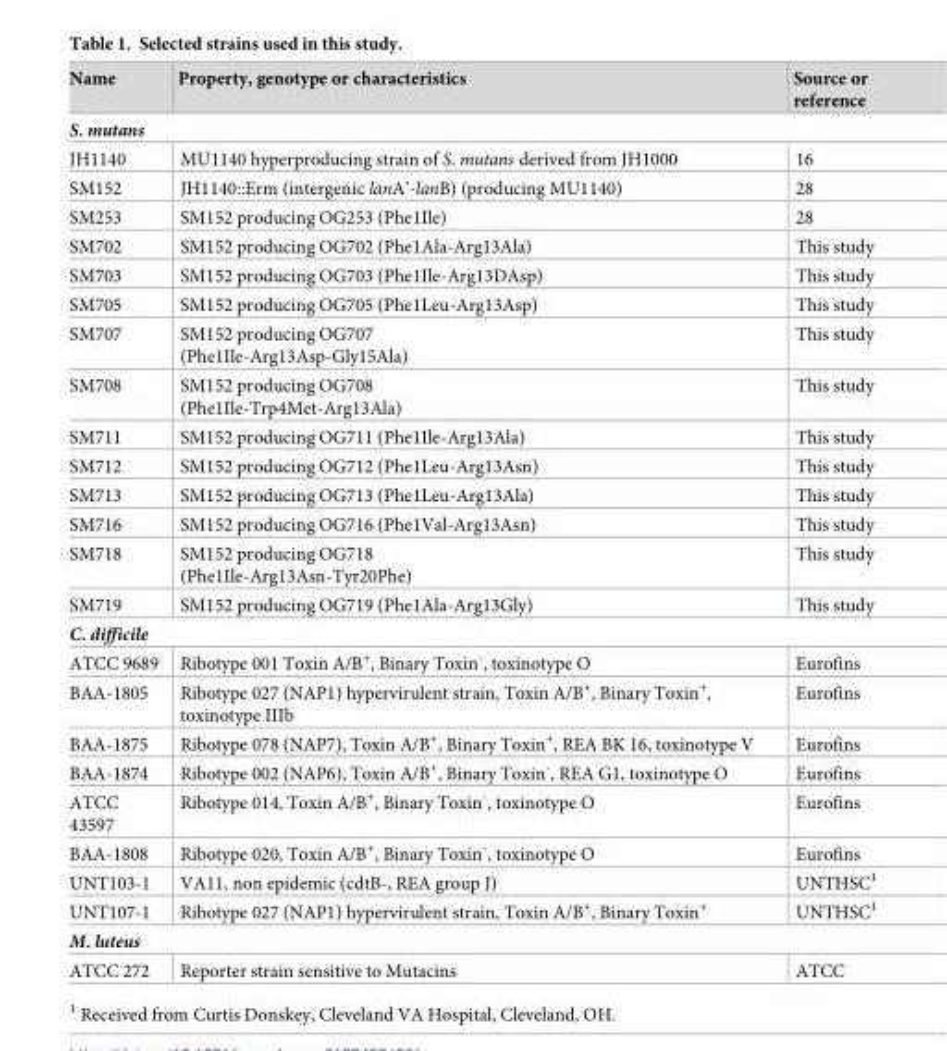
<table><thead><tr><td>Name</td><td>Property, genotype or characteristics</td><td>Source or reference</td></tr></thead><tbody><tr><td colspan="3">S. mutans</td></tr><tr><td>JH1140</td><td>MU1140 hyperproducing strain of S. mutans derived from JH1000</td><td>16</td></tr><tr><td>SM152</td><td>JH1140::Erm (intergenic lanA’-lanB) (producing MU1140)</td><td>28</td></tr><tr><td>SM253</td><td>SM152 producing OG253 (Phe1Ile)</td><td>28</td></tr><tr><td>SM702</td><td>SM152 producing OG702 (Phe1Ala-Arg13Ala)</td><td>This study</td></tr><tr><td>SM703</td><td>SM152 producing OG703 (Phe1Ile-Arg13DAsp)</td><td>This study</td></tr><tr><td>SM705</td><td>SM152 producing OG705 (Phe1Leu-Arg13Asp)</td><td>This study</td></tr><tr><td>SM707</td><td>SM152 producing OG707 (Phe1Ile-Arg13Asp-Gly15Ala)</td><td>This study</td></tr><tr><td>SM708</td><td>SM152 producing OG708 (Phe1Ile-Trp4Met-Arg13Ala)</td><td>This study</td></tr><tr><td>SM711</td><td>SM152 producing OG711 (Phe1Ile-Arg13Ala)</td><td>This study</td></tr><tr><td>SM712</td><td>SM152 producing OG712 (Phe1Leu-Arg13Asn)</td><td>This study</td></tr><tr><td>SM713</td><td>SM152 producing OG713 (Phe1Leu-Arg13Ala)</td><td>This study</td></tr><tr><td>SM716</td><td>SM152 producing OG716 (Phe1Val-Arg13Asn)</td><td>This study</td></tr><tr><td>SM718</td><td>SM152 producing OG718 (Phe1Ile-Arg13Asn-Tyr20Phe)</td><td>This study</td></tr><tr><td>SM719</td><td>SM152 producing OG719 (Phe1Ala-Arg13Gly)</td><td>This study</td></tr><tr><td colspan="3">C. difficile</td></tr><tr><td>ATCC 9689</td><td>Ribotype 001 Toxin A/B<sup>+</sup>, Binary Toxin<sup>-</sup>, toxinotype O</td><td>Eurofins</td></tr><tr><td>BAA-1805</td><td>Ribotype 027 (NAP1) hypervirulent strain, Toxin A/B<sup>+</sup>, Binary Toxin<sup>+</sup>, toxinotype IIIb</td><td>Eurofins</td></tr><tr><td>BAA-1875</td><td>Ribotype 078 (NAP7), Toxin A/B<sup>+</sup>, Binary Toxin<sup>+</sup>, REA BK 16, toxinotype V</td><td>Eurofins</td></tr><tr><td>BAA-1874</td><td>Ribotype 002 (NAP6), Toxin A/B<sup>+</sup>, Binary Toxin<sup>-</sup>, REA G1, toxinotype O</td><td>Eurofins</td></tr><tr><td>ATCC 43597</td><td>Ribotype 014, Toxin A/B<sup>+</sup>, Binary Toxin<sup>-</sup>, toxinotype O</td><td>Eurofins</td></tr><tr><td>BAA-1808</td><td>Ribotype 020, Toxin A/B<sup>+</sup>, Binary Toxin<sup>-</sup>, toxinotype O</td><td>Eurofins</td></tr><tr><td>UNT103-1</td><td>VA11, non epidemic (cdtB-, REA group J)</td><td>UNTHSC<sup>1</sup></td></tr><tr><td>UNT107-1</td><td>Ribotype 027 (NAP1) hypervirulent strain, Toxin A/B<sup>+</sup>, Binary Toxin<sup>+</sup></td><td>UNTHSC<sup>1</sup></td></tr><tr><td colspan="3">M. luteus</td></tr><tr><td>ATCC 272</td><td>Reporter strain sensitive to Mutacins</td><td>ATCC</td></tr></tbody></table>